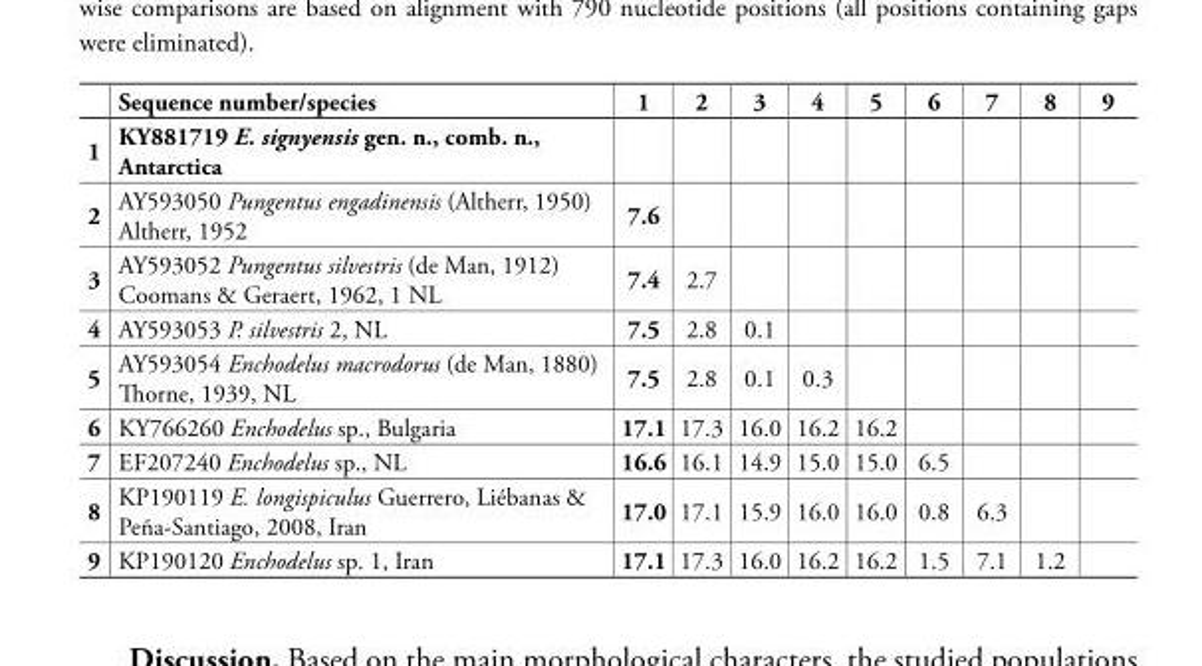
<table><thead><tr><td></td><td>Sequence number/species</td><td>1</td><td>2</td><td>3</td><td>4</td><td>5</td><td>6</td><td>7</td><td>8</td><td>9</td></tr></thead><tbody><tr><td>1</td><td>KY881719 E. signyensis gen. n., comb. n., Antarctica</td><td></td><td></td><td></td><td></td><td></td><td></td><td></td><td></td><td></td></tr><tr><td>2</td><td>AY593050 Pungentus engadinensis (Altherr, 1950) Altherr, 1952</td><td>7.6</td><td></td><td></td><td></td><td></td><td></td><td></td><td></td><td></td></tr><tr><td>3</td><td>AY593052 Pungentus silvestris (de Man, 1912) Coomans &amp; Geraert, 1962, 1 NL</td><td>7.4</td><td>2.7</td><td></td><td></td><td></td><td></td><td></td><td></td><td></td></tr><tr><td>4</td><td>AY593053 P. silvestris 2, NL</td><td>7.5</td><td>2.8</td><td>0.1</td><td></td><td></td><td></td><td></td><td></td><td></td></tr><tr><td>5</td><td>AY593054 Enchodelus macrodorus (de Man, 1880) Thorne, 1939, NL</td><td>7.5</td><td>2.8</td><td>0.1</td><td>0.3</td><td></td><td></td><td></td><td></td><td></td></tr><tr><td>6</td><td>KY766260 Enchodelus sp., Bulgaria</td><td>17.1</td><td>17.3</td><td>16.0</td><td>16.2</td><td>16.2</td><td></td><td></td><td></td><td></td></tr><tr><td>7</td><td>EF207240 Enchodelus sp., NL</td><td>16.6</td><td>16.1</td><td>14.9</td><td>15.0</td><td>15.0</td><td>6.5</td><td></td><td></td><td></td></tr><tr><td>8</td><td>KP190119 E. longispiculus Guerrero, Liébanas &amp; Peña-Santiago, 2008, Iran</td><td>17.0</td><td>17.1</td><td>15.9</td><td>16.0</td><td>16.0</td><td>0.8</td><td>6.3</td><td></td><td></td></tr><tr><td>9</td><td>KP190120 Enchodelus sp. 1, Iran</td><td>17.1</td><td>17.3</td><td>16.0</td><td>16.2</td><td>16.2</td><td>1.5</td><td>7.1</td><td>1.2</td><td></td></tr></tbody></table>